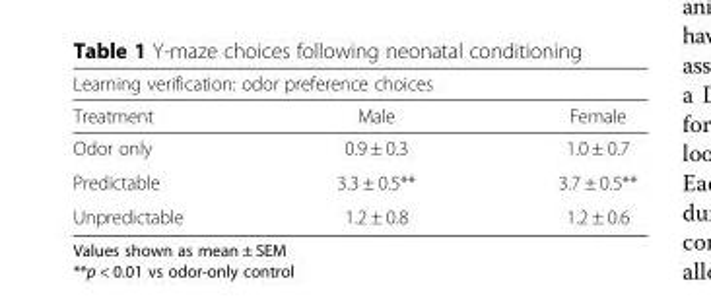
<table><thead><tr><td colspan="3">Learning verification: odor preference choices</td></tr><tr><td>Treatment</td><td>Male</td><td>Female</td></tr></thead><tbody><tr><td>Odor only</td><td>0.9 ± 0.3</td><td>1.0 ± 0.7</td></tr><tr><td>Predictable</td><td>3.3 ± 0.5**</td><td>3.7 ± 0.5**</td></tr><tr><td>Unpredictable</td><td>1.2 ± 0.8</td><td>1.2 ± 0.6</td></tr></tbody></table>